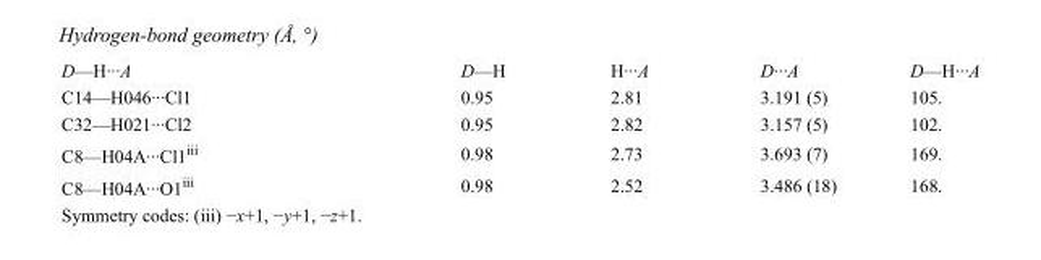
<table><tbody><tr><td>D—H···A</td><td>D—H</td><td>H···A</td><td>D···A</td><td>D—H···A</td></tr><tr><td>C14—H046···Cl1</td><td>0.95</td><td>2.81</td><td>3.191 (5)</td><td>105.</td></tr><tr><td>C32—H021···Cl2</td><td>0.95</td><td>2.82</td><td>3.157 (5)</td><td>102.</td></tr><tr><td>C8—H04A···Cl1<sup>iii</sup></td><td>0.98</td><td>2.73</td><td>3.693 (7)</td><td>169.</td></tr><tr><td>C8—H04A···O1<sup>iii</sup></td><td>0.98</td><td>2.52</td><td>3.486 (18)</td><td>168.</td></tr></tbody></table>